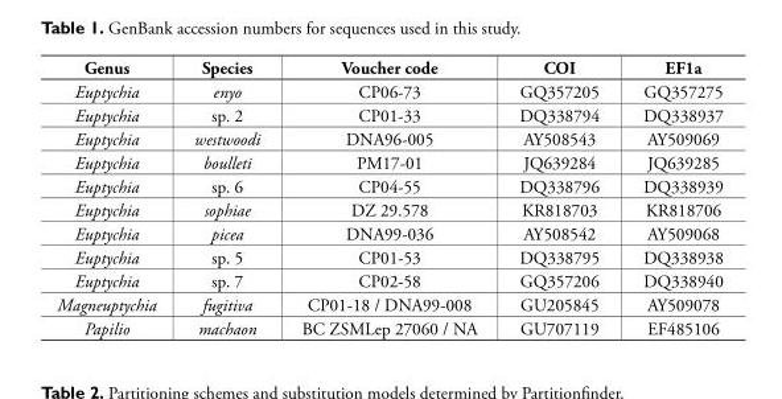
<table><thead><tr><td>Genus</td><td>Species</td><td>Voucher code</td><td>COI</td><td>EF1a</td></tr></thead><tbody><tr><td>Euptychia</td><td>enyo</td><td>CP06-73</td><td>GQ357205</td><td>GQ357275</td></tr><tr><td>Euptychia</td><td>sp. 2</td><td>CP01-33</td><td>DQ338794</td><td>DQ338937</td></tr><tr><td>Euptychia</td><td>westwoodi</td><td>DNA96-005</td><td>AY508543</td><td>AY509069</td></tr><tr><td>Euptychia</td><td>boulleti</td><td>PM17-01</td><td>JQ639284</td><td>JQ639285</td></tr><tr><td>Euptychia</td><td>sp. 6</td><td>CP04-55</td><td>DQ338796</td><td>DQ338939</td></tr><tr><td>Euptychia</td><td>sophiae</td><td>DZ 29.578</td><td>KR818703</td><td>KR818706</td></tr><tr><td>Euptychia</td><td>picea</td><td>DNA99-036</td><td>AY508542</td><td>AY509068</td></tr><tr><td>Euptychia</td><td>sp. 5</td><td>CP01-53</td><td>DQ338795</td><td>DQ338938</td></tr><tr><td>Euptychia</td><td>sp. 7</td><td>CP02-58</td><td>GQ357206</td><td>DQ338940</td></tr><tr><td>Magneuptychia</td><td>fugitiva</td><td>CP01-18 / DNA99-008</td><td>GU205845</td><td>AY509078</td></tr><tr><td>Papilio</td><td>machaon</td><td>BC ZSMLep 27060 / NA</td><td>GU707119</td><td>EF485106</td></tr></tbody></table>